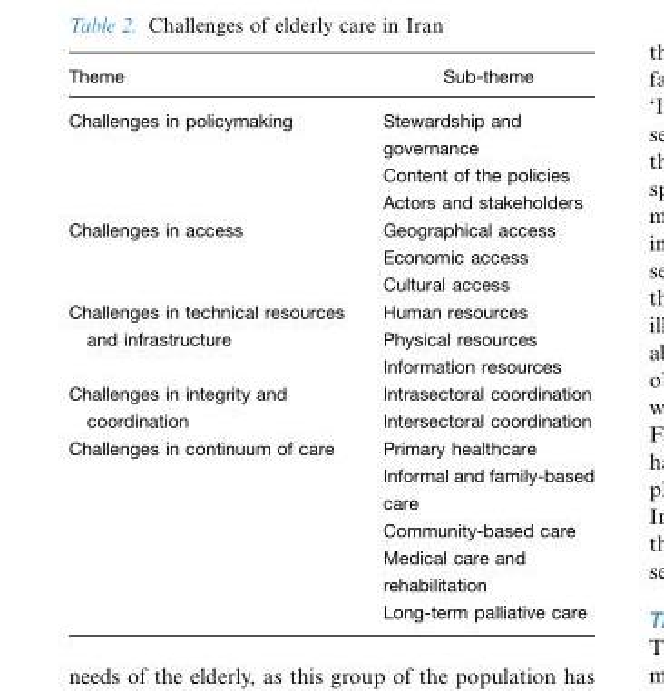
<table><thead><tr><td>Theme</td><td>Sub-theme</td></tr></thead><tbody><tr><td rowspan="3">Challenges in policymaking</td><td>Stewardship and governance</td></tr><tr><td>Content of the policies</td></tr><tr><td>Actors and stakeholders</td></tr><tr><td rowspan="3">Challenges in access</td><td>Geographical access</td></tr><tr><td>Economic access</td></tr><tr><td>Cultural access</td></tr><tr><td>Challenges in technical resources</td><td>Human resources</td></tr><tr><td rowspan="2">and infrastructure</td><td>Physical resources</td></tr><tr><td>Information resources</td></tr><tr><td>Challenges in integrity and</td><td>Intrasectoral coordination</td></tr><tr><td>coordination</td><td>Intersectoral coordination</td></tr><tr><td rowspan="5">Challenges in continuum of care</td><td>Primary healthcare</td></tr><tr><td>Informal and family-based care</td></tr><tr><td>Community-based care</td></tr><tr><td>Medical care and rehabilitation</td></tr><tr><td>Long-term palliative care</td></tr></tbody></table>